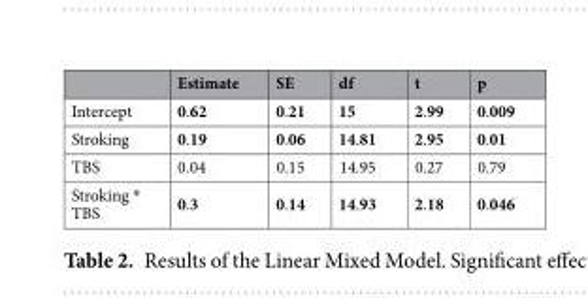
<table><thead><tr><td></td><td>Estimate</td><td>SE</td><td>df</td><td>t</td><td>p</td></tr></thead><tbody><tr><td>Intercept</td><td>0.62</td><td>0.21</td><td>15</td><td>2.99</td><td>0.009</td></tr><tr><td>Stroking</td><td>0.19</td><td>0.06</td><td>14.81</td><td>2.95</td><td>0.01</td></tr><tr><td>TBS</td><td>0.04</td><td>0.15</td><td>14.95</td><td>0.27</td><td>0.79</td></tr><tr><td>Stroking * TBS</td><td>0.3</td><td>0.14</td><td>14.93</td><td>2.18</td><td>0.046</td></tr></tbody></table>